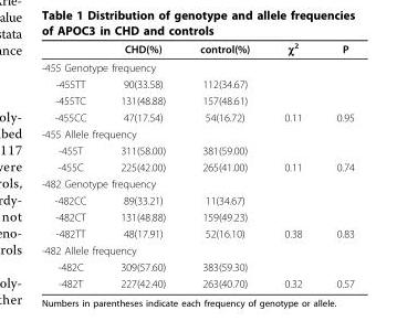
<table><thead><tr><td></td><td>CHD(%)</td><td>control(%)</td><td>χ<sup>2</sup></td><td>P</td></tr></thead><tbody><tr><td colspan="5">-455 Genotype frequency</td></tr><tr><td>-455TT</td><td>90(33.58)</td><td>112(34.67)</td><td></td><td></td></tr><tr><td>-455TC</td><td>131(48.88)</td><td>157(48.61)</td><td></td><td></td></tr><tr><td>-455CC</td><td>47(17.54)</td><td>54(16.72)</td><td>0.11</td><td>0.95</td></tr><tr><td colspan="5">-455 Allele frequency</td></tr><tr><td>-455T</td><td>311(58.00)</td><td>381(59.00)</td><td></td><td></td></tr><tr><td>-455C</td><td>225(42.00)</td><td>265(41.00)</td><td>0.11</td><td>0.74</td></tr><tr><td colspan="5">-482 Genotype frequency</td></tr><tr><td>-482CC</td><td>89(33.21)</td><td>11(34.67)</td><td></td><td></td></tr><tr><td>-482CT</td><td>131(48.88)</td><td>159(49.23)</td><td></td><td></td></tr><tr><td>-482TT</td><td>48(17.91)</td><td>52(16.10)</td><td>0.38</td><td>0.83</td></tr><tr><td colspan="5">-482 Allele frequency</td></tr><tr><td>-482C</td><td>309(57.60)</td><td>383(59.30)</td><td></td><td></td></tr><tr><td>-482T</td><td>227(42.40)</td><td>263(40.70)</td><td>0.32</td><td>0.57</td></tr></tbody></table>